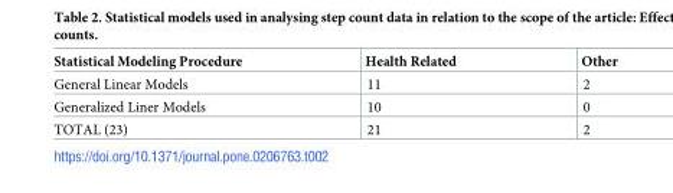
<table><thead><tr><td>Statistical Modeling Procedure</td><td>Health Related</td><td>Other</td></tr></thead><tbody><tr><td>General Linear Models</td><td>11</td><td>2</td></tr><tr><td>Generalized Liner Models</td><td>10</td><td>0</td></tr><tr><td>TOTAL (23)</td><td>21</td><td>2</td></tr></tbody></table>